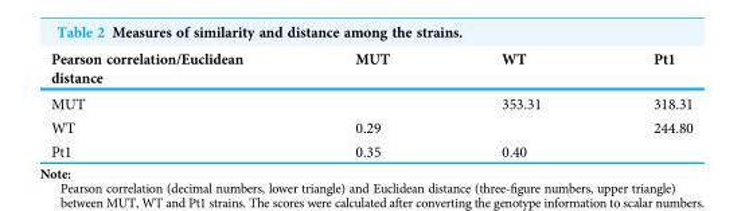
<table><thead><tr><td>Pearson correlation/Euclidean distance</td><td>MUT</td><td>WT</td><td>Pt1</td></tr></thead><tbody><tr><td>MUT</td><td></td><td>353.31</td><td>318.31</td></tr><tr><td>WT</td><td>0.29</td><td></td><td>244.80</td></tr><tr><td>Pt1</td><td>0.35</td><td>0.40</td><td></td></tr></tbody></table>